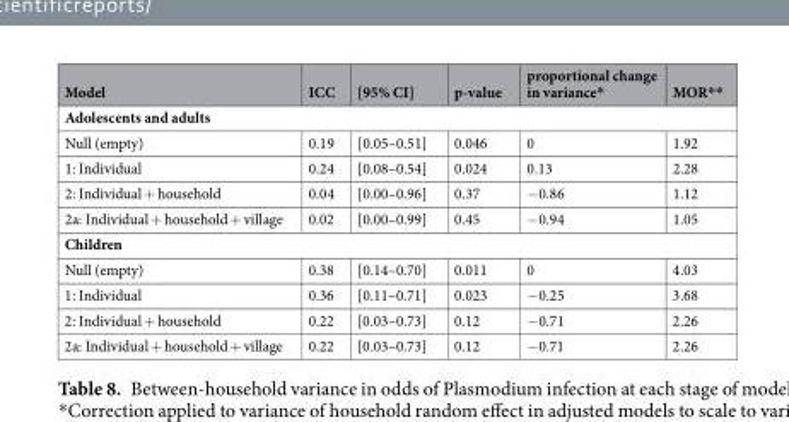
<table><thead><tr><td>Model</td><td>ICC</td><td>[95% CI]</td><td>p-value</td><td>proportional change in variance*</td><td>MOR**</td></tr></thead><tbody><tr><td colspan="6">Adolescents and adults</td></tr><tr><td>Null (empty)</td><td>0.19</td><td>[0.05–0.51]</td><td>0.046</td><td>0</td><td>1.92</td></tr><tr><td>1: Individual</td><td>0.24</td><td>[0.08–0.54]</td><td>0.024</td><td>0.13</td><td>2.28</td></tr><tr><td>2: Individual + household</td><td>0.04</td><td>[0.00–0.96]</td><td>0.37</td><td>−0.86</td><td>1.12</td></tr><tr><td>2a: Individual + household + village</td><td>0.02</td><td>[0.00–0.99]</td><td>0.45</td><td>−0.94</td><td>1.05</td></tr><tr><td colspan="6">Children</td></tr><tr><td>Null (empty)</td><td>0.38</td><td>[0.14–0.70]</td><td>0.011</td><td>0</td><td>4.03</td></tr><tr><td>1: Individual</td><td>0.36</td><td>[0.11–0.71]</td><td>0.023</td><td>−0.25</td><td>3.68</td></tr><tr><td>2: Individual + household</td><td>0.22</td><td>[0.03–0.73]</td><td>0.12</td><td>−0.71</td><td>2.26</td></tr><tr><td>2a: Individual + household + village</td><td>0.22</td><td>[0.03–0.73]</td><td>0.12</td><td>−0.71</td><td>2.26</td></tr></tbody></table>